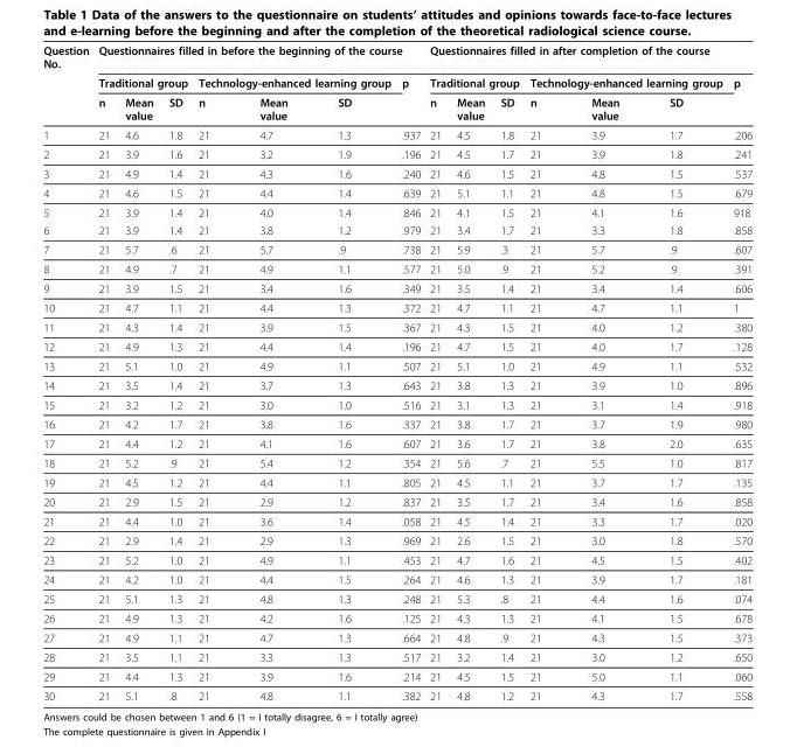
<table><thead><tr><td rowspan="3">Question No.</td><td colspan="7">Questionnaires filled in before the beginning of the course</td><td colspan="7">Questionnaires filled in after completion of the course</td></tr><tr><td colspan="3">Traditional group</td><td colspan="3">Technology-enhanced learning group</td><td rowspan="2">p</td><td colspan="3">Traditional group</td><td colspan="3">Technology-enhanced learning group</td><td rowspan="2">p</td></tr><tr><td>n</td><td>Mean value</td><td>SD</td><td>n</td><td>Mean value</td><td>SD</td><td>n</td><td>Mean value</td><td>SD</td><td>n</td><td>Mean value</td><td>SD</td></tr></thead><tbody><tr><td>1</td><td>21</td><td>4.6</td><td>1.8</td><td>21</td><td>4.7</td><td>1.3</td><td>.937</td><td>21</td><td>4.5</td><td>1.8</td><td>21</td><td>3.9</td><td>1.7</td><td>.206</td></tr><tr><td>2</td><td>21</td><td>3.9</td><td>1.6</td><td>21</td><td>3.2</td><td>1.9</td><td>.196</td><td>21</td><td>4.5</td><td>1.7</td><td>21</td><td>3.9</td><td>1.8</td><td>.241</td></tr><tr><td>3</td><td>21</td><td>4.9</td><td>1.4</td><td>21</td><td>4.3</td><td>1.6</td><td>.240</td><td>21</td><td>4.6</td><td>1.5</td><td>21</td><td>4.8</td><td>1.5</td><td>.537</td></tr><tr><td>4</td><td>21</td><td>4.6</td><td>1.5</td><td>21</td><td>4.4</td><td>1.4</td><td>.639</td><td>21</td><td>5.1</td><td>1.1</td><td>21</td><td>4.8</td><td>1.5</td><td>.679</td></tr><tr><td>5</td><td>21</td><td>3.9</td><td>1.4</td><td>21</td><td>4.0</td><td>1.4</td><td>.846</td><td>21</td><td>4.1</td><td>1.5</td><td>21</td><td>4.1</td><td>1.6</td><td>918</td></tr><tr><td>6</td><td>21</td><td>3.9</td><td>1.4</td><td>21</td><td>3.8</td><td>1.2</td><td>.979</td><td>21</td><td>3.4</td><td>1.7</td><td>21</td><td>3.3</td><td>1.8</td><td>.858</td></tr><tr><td>7</td><td>21</td><td>5.7</td><td>.6</td><td>21</td><td>5.7</td><td>.9</td><td>.738</td><td>21</td><td>5.9</td><td>.3</td><td>21</td><td>5.7</td><td>.9</td><td>.607</td></tr><tr><td>8</td><td>21</td><td>4.9</td><td>.7</td><td>21</td><td>4.9</td><td>1.1</td><td>.577</td><td>21</td><td>5.0</td><td>.9</td><td>21</td><td>5.2</td><td>.9</td><td>.391</td></tr><tr><td>9</td><td>21</td><td>3.9</td><td>1.5</td><td>21</td><td>3.4</td><td>1.6</td><td>.349</td><td>21</td><td>3.5</td><td>1.4</td><td>21</td><td>3.4</td><td>1.4</td><td>.606</td></tr><tr><td>10</td><td>21</td><td>4.7</td><td>1.1</td><td>21</td><td>4.4</td><td>1.3</td><td>.372</td><td>21</td><td>4.7</td><td>1.1</td><td>21</td><td>4.7</td><td>1.1</td><td>1</td></tr><tr><td>11</td><td>21</td><td>4.3</td><td>1.4</td><td>21</td><td>3.9</td><td>1.5</td><td>.367</td><td>21</td><td>4.3</td><td>1.5</td><td>21</td><td>4.0</td><td>1.2</td><td>.380</td></tr><tr><td>12</td><td>21</td><td>4.9</td><td>1.3</td><td>21</td><td>4.4</td><td>1.4</td><td>.196</td><td>21</td><td>4.7</td><td>1.5</td><td>21</td><td>4.0</td><td>1.7</td><td>.128</td></tr><tr><td>13</td><td>21</td><td>5.1</td><td>1.0</td><td>21</td><td>4.9</td><td>1.1</td><td>.507</td><td>21</td><td>5.1</td><td>1.0</td><td>21</td><td>4.9</td><td>1.1</td><td>.532</td></tr><tr><td>14</td><td>21</td><td>3.5</td><td>1.4</td><td>21</td><td>3.7</td><td>1.3</td><td>.643</td><td>21</td><td>3.8</td><td>1.3</td><td>21</td><td>3.9</td><td>1.0</td><td>.896</td></tr><tr><td>15</td><td>21</td><td>3.2</td><td>1.2</td><td>21</td><td>3.0</td><td>1.0</td><td>.516</td><td>21</td><td>3.1</td><td>1.3</td><td>21</td><td>3.1</td><td>1.4</td><td>.918</td></tr><tr><td>16</td><td>21</td><td>4.2</td><td>1.7</td><td>21</td><td>3.8</td><td>1.6</td><td>.337</td><td>21</td><td>3.8</td><td>1.7</td><td>21</td><td>3.7</td><td>1.9</td><td>.980</td></tr><tr><td>17</td><td>21</td><td>4.4</td><td>1.2</td><td>21</td><td>4.1</td><td>1.6</td><td>.607</td><td>21</td><td>3.6</td><td>1.7</td><td>21</td><td>3.8</td><td>2.0</td><td>.635</td></tr><tr><td>18</td><td>21</td><td>5.2</td><td>.9</td><td>21</td><td>5.4</td><td>1.2</td><td>.354</td><td>21</td><td>5.6</td><td>.7</td><td>21</td><td>5.5</td><td>1.0</td><td>.817</td></tr><tr><td>19</td><td>21</td><td>4.5</td><td>1.2</td><td>21</td><td>4.4</td><td>1.1</td><td>.805</td><td>21</td><td>4.5</td><td>1.1</td><td>21</td><td>3.7</td><td>1.7</td><td>.135</td></tr><tr><td>20</td><td>21</td><td>2.9</td><td>1.5</td><td>21</td><td>2.9</td><td>1.2</td><td>.837</td><td>21</td><td>3.5</td><td>1.7</td><td>21</td><td>3.4</td><td>1.6</td><td>.858</td></tr><tr><td>21</td><td>21</td><td>4.4</td><td>1.0</td><td>21</td><td>3.6</td><td>1.4</td><td>.058</td><td>21</td><td>4.5</td><td>1.4</td><td>21</td><td>3.3</td><td>1.7</td><td>.020</td></tr><tr><td>22</td><td>21</td><td>2.9</td><td>1.4</td><td>21</td><td>2.9</td><td>1.3</td><td>.969</td><td>21</td><td>2.6</td><td>1.5</td><td>21</td><td>3.0</td><td>1.8</td><td>.570</td></tr><tr><td>23</td><td>21</td><td>5.2</td><td>1.0</td><td>21</td><td>4.9</td><td>1.1</td><td>.453</td><td>21</td><td>4.7</td><td>1.6</td><td>21</td><td>4.5</td><td>1.5</td><td>.402</td></tr><tr><td>24</td><td>21</td><td>4.2</td><td>1.0</td><td>21</td><td>4.4</td><td>1.5</td><td>.264</td><td>21</td><td>4.6</td><td>1.3</td><td>21</td><td>3.9</td><td>1.7</td><td>.181</td></tr><tr><td>25</td><td>21</td><td>5.1</td><td>1.3</td><td>21</td><td>4.8</td><td>1.3</td><td>.248</td><td>21</td><td>5.3</td><td>.8</td><td>21</td><td>4.4</td><td>1.6</td><td>.074</td></tr><tr><td>26</td><td>21</td><td>4.9</td><td>1.3</td><td>21</td><td>4.2</td><td>1.6</td><td>.125</td><td>21</td><td>4.3</td><td>1.3</td><td>21</td><td>4.1</td><td>1.5</td><td>.678</td></tr><tr><td>27</td><td>21</td><td>4.9</td><td>1.1</td><td>21</td><td>4.7</td><td>1.3</td><td>.664</td><td>21</td><td>4.8</td><td>.9</td><td>21</td><td>4.3</td><td>1.5</td><td>.373</td></tr><tr><td>28</td><td>21</td><td>3.5</td><td>1.1</td><td>21</td><td>3.3</td><td>1.3</td><td>.517</td><td>21</td><td>3.2</td><td>1.4</td><td>21</td><td>3.0</td><td>1.2</td><td>.650</td></tr><tr><td>29</td><td>21</td><td>4.4</td><td>1.3</td><td>21</td><td>3.9</td><td>1.6</td><td>.214</td><td>21</td><td>4.5</td><td>1.5</td><td>21</td><td>5.0</td><td>1.1</td><td>.060</td></tr><tr><td>30</td><td>21</td><td>5.1</td><td>.8</td><td>21</td><td>4.8</td><td>1.1</td><td>.382</td><td>21</td><td>4.8</td><td>1.2</td><td>21</td><td>4.3</td><td>1.7</td><td>.558</td></tr></tbody></table>